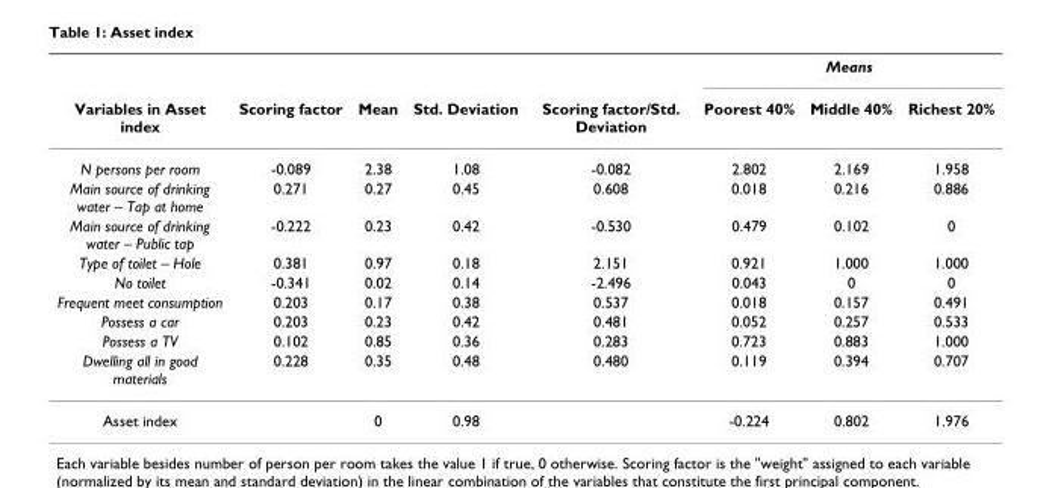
<table><thead><tr><td rowspan="2">Variables in Asset index</td><td rowspan="2">Scoring factor</td><td rowspan="2">Mean</td><td rowspan="2">Std. Deviation</td><td rowspan="2">Scoring factor/Std. Deviation</td><td colspan="3">Means</td></tr><tr><td>Poorest 40%</td><td>Middle 40%</td><td>Richest 20%</td></tr></thead><tbody><tr><td>N persons per room</td><td>-0.089</td><td>2.38</td><td>1.08</td><td>-0.082</td><td>2.802</td><td>2.169</td><td>1.958</td></tr><tr><td>Main source of drinking water – Tap at home</td><td>0.271</td><td>0.27</td><td>0.45</td><td>0.608</td><td>0.018</td><td>0.216</td><td>0.886</td></tr><tr><td>Main source of drinking water – Public tap</td><td>-0.222</td><td>0.23</td><td>0.42</td><td>-0.530</td><td>0.479</td><td>0.102</td><td>0</td></tr><tr><td>Type of toilet – Hole</td><td>0.381</td><td>0.97</td><td>0.18</td><td>2.151</td><td>0.921</td><td>1.000</td><td>1.000</td></tr><tr><td>No toilet</td><td>-0.341</td><td>0.02</td><td>0.14</td><td>-2.496</td><td>0.043</td><td>0</td><td>0</td></tr><tr><td>Frequent meet consumption</td><td>0.203</td><td>0.17</td><td>0.38</td><td>0.537</td><td>0.018</td><td>0.157</td><td>0.491</td></tr><tr><td>Possess a car</td><td>0.203</td><td>0.23</td><td>0.42</td><td>0.481</td><td>0.052</td><td>0.257</td><td>0.533</td></tr><tr><td>Possess a TV</td><td>0.102</td><td>0.85</td><td>0.36</td><td>0.283</td><td>0.723</td><td>0.883</td><td>1.000</td></tr><tr><td>Dwelling all in good materials</td><td>0.228</td><td>0.35</td><td>0.48</td><td>0.480</td><td>0.119</td><td>0.394</td><td>0.707</td></tr><tr><td>Asset index</td><td></td><td>0</td><td>0.98</td><td></td><td>-0.224</td><td>0.802</td><td>1.976</td></tr></tbody></table>